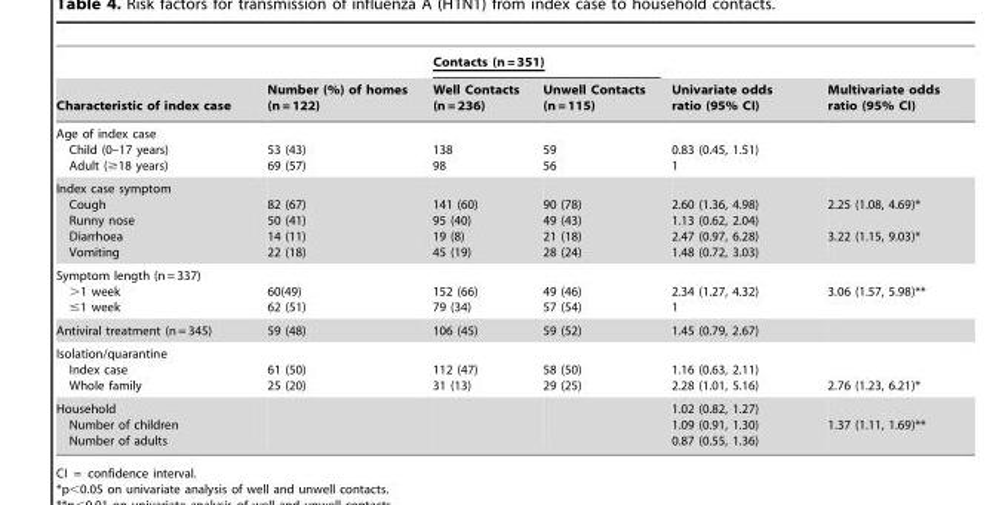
<table><thead><tr><td rowspan="2">Characteristic of index case</td><td rowspan="2">Number (%) of homes (n = 122)</td><td colspan="2">Contacts (n = 351)</td><td rowspan="2">Univariate odds ratio (95% CI)</td><td rowspan="2">Multivariate odds ratio (95% CI)</td></tr><tr><td>Well Contacts (n = 236)</td><td>Unwell Contacts (n = 115)</td></tr></thead><tbody><tr><td>Age of index case Child (0–17 years) Adult (≥18 years)</td><td>53 (43) 69 (57)</td><td>138 98</td><td>59 56</td><td>0.83 (0.45, 1.51) 1</td><td></td></tr><tr><td>Index case symptom Cough Runny nose Diarrhoea Vomiting</td><td>82 (67) 50 (41) 14 (11) 22 (18)</td><td>141 (60) 95 (40) 19 (8) 45 (19)</td><td>90 (78) 49 (43) 21 (18) 28 (24)</td><td>2.60 (1.36, 4.98) 1.13 (0.62, 2.04) 2.47 (0.97, 6.28) 1.48 (0.72, 3.03)</td><td>2.25 (1.08, 4.69)* 3.22 (1.15, 9.03)*</td></tr><tr><td>Symptom length (n = 337) &gt;1 week ≤1 week</td><td>60(49) 62 (51)</td><td>152 (66) 79 (34)</td><td>49 (46) 57 (54)</td><td>2.34 (1.27, 4.32) 1</td><td>3.06 (1.57, 5.98)**</td></tr><tr><td>Antiviral treatment (n = 345)</td><td>59 (48)</td><td>106 (45)</td><td>59 (52)</td><td>1.45 (0.79, 2.67)</td><td></td></tr><tr><td>Isolation/quarantine Index case Whole family</td><td>61 (50) 25 (20)</td><td>112 (47) 31 (13)</td><td>58 (50) 29 (25)</td><td>1.16 (0.63, 2.11) 2.28 (1.01, 5.16)</td><td>2.76 (1.23, 6.21)*</td></tr><tr><td>Household Number of children Number of adults</td><td></td><td></td><td></td><td>1.02 (0.82, 1.27) 1.09 (0.91, 1.30) 0.87 (0.55, 1.36)</td><td>1.37 (1.11, 1.69)**</td></tr></tbody></table>